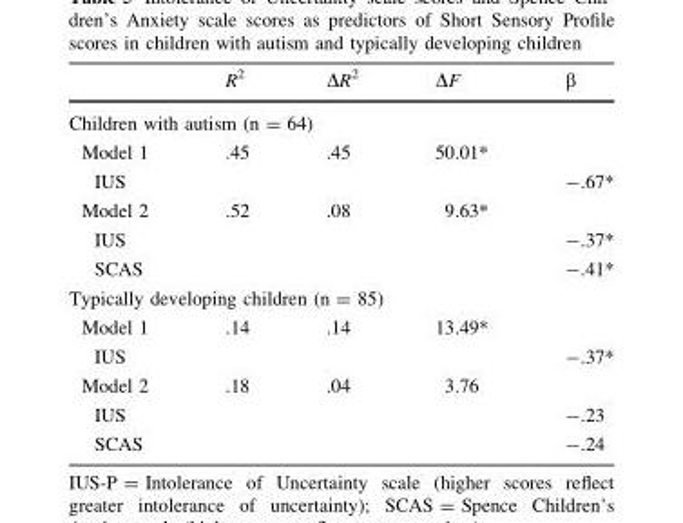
<table><thead><tr><td></td><td>R<sup>2</sup></td><td>∆R<sup>2</sup></td><td>∆F</td><td>β</td></tr></thead><tbody><tr><td colspan="5">Children with autism (n = 64)</td></tr><tr><td>Model 1</td><td>.45</td><td>.45</td><td>50.01*</td><td></td></tr><tr><td>IUS</td><td></td><td></td><td></td><td>-.67*</td></tr><tr><td>Model 2</td><td>.52</td><td>.08</td><td>9.63*</td><td></td></tr><tr><td>IUS</td><td></td><td></td><td></td><td>-.37*</td></tr><tr><td>SCAS</td><td></td><td></td><td></td><td>-.41*</td></tr><tr><td colspan="5">Typically developing children (n = 85)</td></tr><tr><td>Model 1</td><td>.14</td><td>.14</td><td>13.49*</td><td></td></tr><tr><td>IUS</td><td></td><td></td><td></td><td>-.37*</td></tr><tr><td>Model 2</td><td>.18</td><td>.04</td><td>3.76</td><td></td></tr><tr><td>IUS</td><td></td><td></td><td></td><td>-.23</td></tr><tr><td>SCAS</td><td></td><td></td><td></td><td>-.24</td></tr></tbody></table>